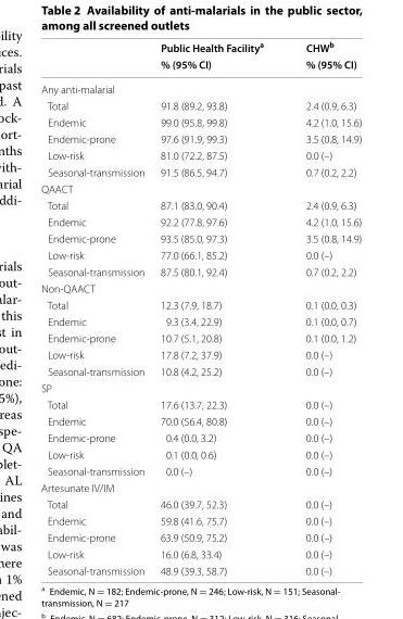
<table><thead><tr><td rowspan="2"></td><td rowspan="2">Public Health Facility<sup>a</sup> % (95% CI)</td><td rowspan="2">CHW<sup>b</sup> % (95% CI)</td></tr><tr></tr></thead><tbody><tr><td colspan="3">Any anti-malarial</td></tr><tr><td>Total</td><td>91.8 (89.2, 93.8)</td><td>2.4 (0.9, 6.3)</td></tr><tr><td>Endemic</td><td>99.0 (95.8, 99.8)</td><td>4.2 (1.0, 15.6)</td></tr><tr><td>Endemic-prone</td><td>97.6 (91.9, 99.3)</td><td>3.5 (0.8, 14.9)</td></tr><tr><td>Low-risk</td><td>81.0 (72.2, 87.5)</td><td>0.0 (–)</td></tr><tr><td>Seasonal-transmission</td><td>91.5 (86.5, 94.7)</td><td>0.7 (0.2, 2.2)</td></tr><tr><td colspan="3">QAACT</td></tr><tr><td>Total</td><td>87.1 (83.0, 90.4)</td><td>2.4 (0.9, 6.3)</td></tr><tr><td>Endemic</td><td>92.2 (77.8, 97.6)</td><td>4.2 (1.0, 15.6)</td></tr><tr><td>Endemic-prone</td><td>93.5 (85.0, 97.3)</td><td>3.5 (0.8, 14.9)</td></tr><tr><td>Low-risk</td><td>77.0 (66.1, 85.2)</td><td>0.0 (–)</td></tr><tr><td>Seasonal-transmission</td><td>87.5 (80.1, 92.4)</td><td>0.7 (0.2, 2.2)</td></tr><tr><td colspan="3">Non-QAACT</td></tr><tr><td>Total</td><td>12.3 (7.9, 18.7)</td><td>0.1 (0.0, 0.3)</td></tr><tr><td>Endemic</td><td>9.3 (3.4, 22.9)</td><td>0.1 (0.0, 0.7)</td></tr><tr><td>Endemic-prone</td><td>10.7 (5.1, 20.8)</td><td>0.1 (0.0, 1.2)</td></tr><tr><td>Low-risk</td><td>17.8 (7.2, 37.9)</td><td>0.0 (–)</td></tr><tr><td>Seasonal-transmission</td><td>10.8 (4.2, 25.2)</td><td>0.0 (–)</td></tr><tr><td colspan="3">SP</td></tr><tr><td>Total</td><td>17.6 (13.7, 22.3)</td><td>0.0 (–)</td></tr><tr><td>Endemic</td><td>70.0 (56.4, 80.8)</td><td>0.0 (–)</td></tr><tr><td>Endemic-prone</td><td>0.4 (0.0, 3.2)</td><td>0.0 (–)</td></tr><tr><td>Low-risk</td><td>0.1 (0.0, 0.6)</td><td>0.0 (–)</td></tr><tr><td>Seasonal-transmission</td><td>0.0 (–)</td><td>0.0 (–)</td></tr><tr><td colspan="3">Artesunate IV/IM</td></tr><tr><td>Total</td><td>46.0 (39.7, 52.3)</td><td>0.0 (–)</td></tr><tr><td>Endemic</td><td>59.8 (41.6, 75.7)</td><td>0.0 (–)</td></tr><tr><td>Endemic-prone</td><td>63.9 (50.9, 75.2)</td><td>0.0 (–)</td></tr><tr><td>Low-risk</td><td>16.0 (6.8, 33.4)</td><td>0.0 (–)</td></tr><tr><td>Seasonal-transmission</td><td>48.9 (39.3, 58.7)</td><td>0.0 (–)</td></tr></tbody></table>